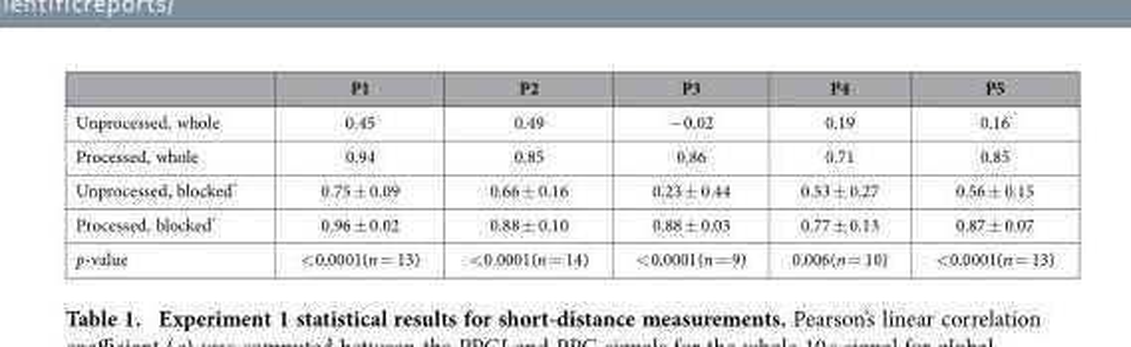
<table><thead><tr><td></td><td>P1</td><td>P2</td><td>P3</td><td>P4</td><td>P5</td></tr></thead><tbody><tr><td>Unprocessed, whole</td><td>0.45</td><td>0.49</td><td>− 0.02</td><td>0.19</td><td>0.16</td></tr><tr><td>Processed, whole</td><td>0.94</td><td>0.85</td><td>0.86</td><td>0.71</td><td>0.85</td></tr><tr><td>Unprocessed, blocked*</td><td>0.75 ± 0.09</td><td>0.66 ± 0.16</td><td>0.23 ± 0.44</td><td>0.53 ± 0.27</td><td>0.56 ± 0.15</td></tr><tr><td>Processed, blocked*</td><td>0.96 ± 0.02</td><td>0.88 ± 0.10</td><td>0.88 ± 0.03</td><td>0.77 ± 0.13</td><td>0.87 ± 0.07</td></tr><tr><td>p-value</td><td>&lt; 0.0001(n = 13)</td><td>&lt; 0.0001(n = 14)</td><td>&lt; 0.0001(n = 9)</td><td>0.006(n = 10)</td><td>&lt; 0.0001(n = 13)</td></tr></tbody></table>